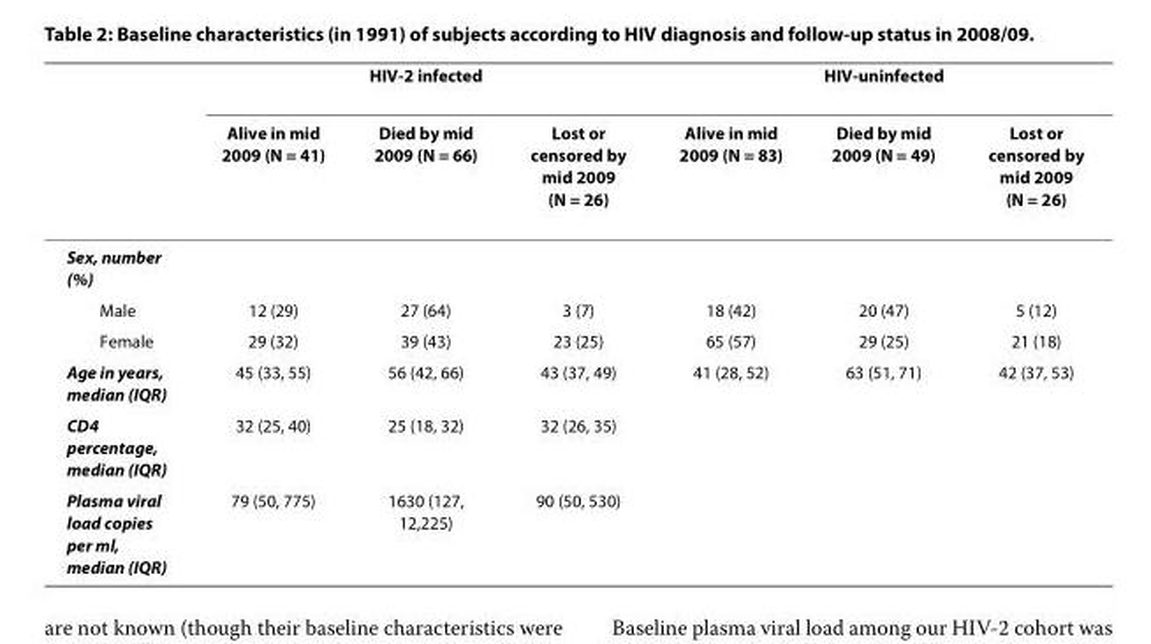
<table><thead><tr><td rowspan="2"></td><td colspan="3">HIV-2 infected</td><td colspan="3">HIV-uninfected</td></tr><tr><td>Alive in mid 2009 (N = 41)</td><td>Died by mid 2009 (N = 66)</td><td>Lost or censored by mid 2009 (N = 26)</td><td>Alive in mid 2009 (N = 83)</td><td>Died by mid 2009 (N = 49)</td><td>Lost or censored by mid 2009 (N = 26)</td></tr></thead><tbody><tr><td colspan="7">Sex, number (%)</td></tr><tr><td>Male</td><td>12 (29)</td><td>27 (64)</td><td>3 (7)</td><td>18 (42)</td><td>20 (47)</td><td>5 (12)</td></tr><tr><td>Female</td><td>29 (32)</td><td>39 (43)</td><td>23 (25)</td><td>65 (57)</td><td>29 (25)</td><td>21 (18)</td></tr><tr><td>Age in years, median (IQR)</td><td>45 (33, 55)</td><td>56 (42, 66)</td><td>43 (37, 49)</td><td>41 (28, 52)</td><td>63 (51, 71)</td><td>42 (37, 53)</td></tr><tr><td>CD4 percentage, median (IQR)</td><td>32 (25, 40)</td><td>25 (18, 32)</td><td>32 (26, 35)</td><td></td><td></td><td></td></tr><tr><td>Plasma viral load copies per ml, median (IQR)</td><td>79 (50, 775)</td><td>1630 (127, 12,225)</td><td>90 (50, 530)</td><td></td><td></td><td></td></tr></tbody></table>